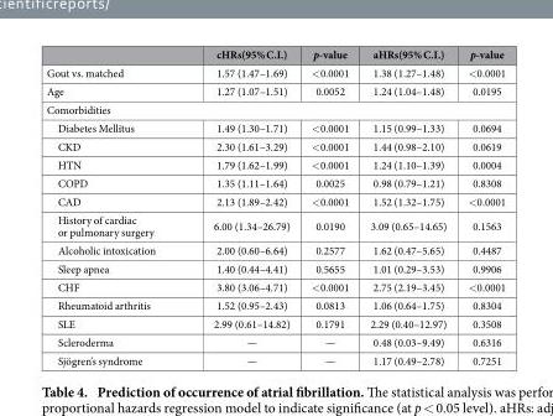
<table><thead><tr><td></td><td>cHRs(95% C.I.)</td><td>p-value</td><td>aHRs(95% C.I.)</td><td>p-value</td></tr></thead><tbody><tr><td>Gout vs. matched</td><td>1.57 (1.47–1.69)</td><td>&lt; 0.0001</td><td>1.38 (1.27–1.48)</td><td>&lt; 0.0001</td></tr><tr><td>Age</td><td>1.27 (1.07–1.51)</td><td>0.0052</td><td>1.24 (1.04–1.48)</td><td>0.0195</td></tr><tr><td colspan="5">Comorbidities</td></tr><tr><td>Diabetes Mellitus</td><td>1.49 (1.30–1.71)</td><td>&lt; 0.0001</td><td>1.15 (0.99–1.33)</td><td>0.0694</td></tr><tr><td>CKD</td><td>2.30 (1.61–3.29)</td><td>&lt; 0.0001</td><td>1.44 (0.98–2.10)</td><td>0.0619</td></tr><tr><td>HTN</td><td>1.79 (1.62–1.99)</td><td>&lt; 0.0001</td><td>1.24 (1.10–1.39)</td><td>0.0004</td></tr><tr><td>COPD</td><td>1.35 (1.11–1.64)</td><td>0.0025</td><td>0.98 (0.79–1.21)</td><td>0.8308</td></tr><tr><td>CAD</td><td>2.13 (1.89–2.42)</td><td>&lt; 0.0001</td><td>1.52 (1.32–1.75)</td><td>&lt; 0.0001</td></tr><tr><td>History of cardiac or pulmonary surgery</td><td>6.00 (1.34–26.79)</td><td>0.0190</td><td>3.09 (0.65–14.65)</td><td>0.1563</td></tr><tr><td>Alcoholic intoxication</td><td>2.00 (0.60–6.64)</td><td>0.2577</td><td>1.62 (0.47–5.65)</td><td>0.4487</td></tr><tr><td>Sleep apnea</td><td>1.40 (0.44–4.41)</td><td>0.5655</td><td>1.01 (0.29–3.53)</td><td>0.9906</td></tr><tr><td>CHF</td><td>3.80 (3.06–4.71)</td><td>&lt; 0.0001</td><td>2.75 (2.19–3.45)</td><td>&lt; 0.0001</td></tr><tr><td>Rheumatoid arthritis</td><td>1.52 (0.95–2.43)</td><td>0.0813</td><td>1.06 (0.64–1.75)</td><td>0.8304</td></tr><tr><td>SLE</td><td>2.99 (0.61–14.82)</td><td>0.1791</td><td>2.29 (0.40–12.97)</td><td>0.3508</td></tr><tr><td>Scleroderma</td><td>—</td><td>—</td><td>0.48 (0.03–9.49)</td><td>0.6316</td></tr><tr><td>Sjögren’s syndrome</td><td>—</td><td>—</td><td>1.17 (0.49–2.78)</td><td>0.7251</td></tr></tbody></table>